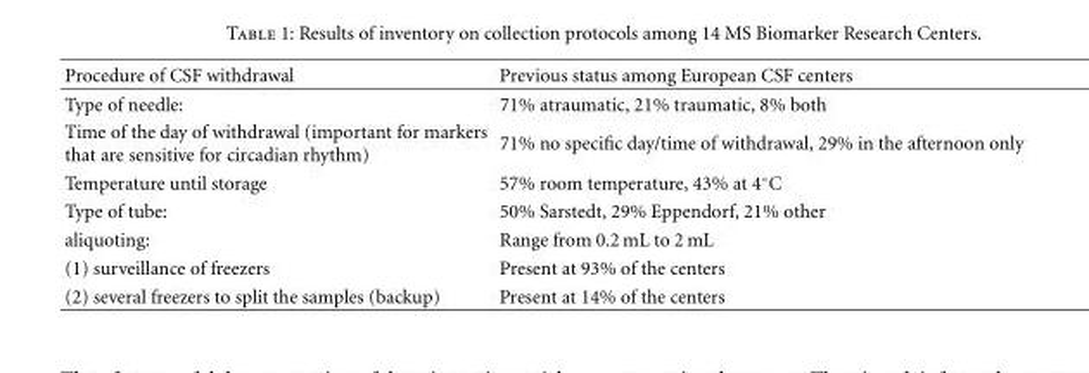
<table><thead><tr><td>Procedure of CSF withdrawal</td><td>Previous status among European CSF centers</td></tr></thead><tbody><tr><td>Type of needle:</td><td>71% atraumatic, 21% traumatic, 8% both</td></tr><tr><td>Time of the day of withdrawal (important for markers that are sensitive for circadian rhythm)</td><td>71% no specific day/time of withdrawal, 29% in the afternoon only</td></tr><tr><td>Temperature until storage</td><td>57% room temperature, 43% at 4◦C</td></tr><tr><td>Type of tube:</td><td>50% Sarstedt, 29% Eppendorf, 21% other</td></tr><tr><td>aliquoting:</td><td>Range from 0.2 mL to 2 mL</td></tr><tr><td>(1) surveillance of freezers</td><td>Present at 93% of the centers</td></tr><tr><td>(2) several freezers to split the samples (backup)</td><td>Present at 14% of the centers</td></tr></tbody></table>